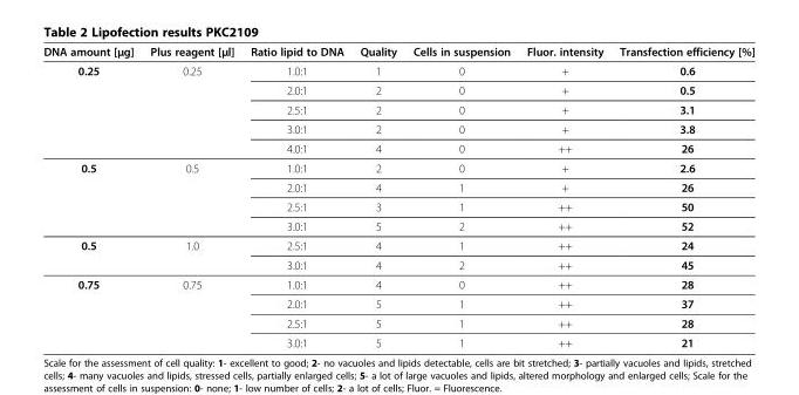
<table><thead><tr><td>DNA amount [μg]</td><td>Plus reagent [μl]</td><td>Ratio lipid to DNA</td><td>Quality</td><td>Cells in suspension</td><td>Fluor. intensity</td><td>Transfection efficiency [%]</td></tr></thead><tbody><tr><td rowspan="5">0.25</td><td rowspan="5">0.25</td><td>1.0:1</td><td>1</td><td>0</td><td>+</td><td>0.6</td></tr><tr><td>2.0:1</td><td>2</td><td>0</td><td>+</td><td>0.5</td></tr><tr><td>2.5:1</td><td>2</td><td>0</td><td>+</td><td>3.1</td></tr><tr><td>3.0:1</td><td>2</td><td>0</td><td>+</td><td>3.8</td></tr><tr><td>4.0:1</td><td>4</td><td>0</td><td>++</td><td>26</td></tr><tr><td rowspan="4">0.5</td><td rowspan="4">0.5</td><td>1.0:1</td><td>2</td><td>0</td><td>+</td><td>2.6</td></tr><tr><td>2.0:1</td><td>4</td><td>1</td><td>+</td><td>26</td></tr><tr><td>2.5:1</td><td>3</td><td>1</td><td>++</td><td>50</td></tr><tr><td>3.0:1</td><td>5</td><td>2</td><td>++</td><td>52</td></tr><tr><td rowspan="2">0.5</td><td rowspan="2">1.0</td><td>2.5:1</td><td>4</td><td>1</td><td>++</td><td>24</td></tr><tr><td>3.0:1</td><td>4</td><td>2</td><td>++</td><td>45</td></tr><tr><td rowspan="4">0.75</td><td rowspan="4">0.75</td><td>1.0:1</td><td>4</td><td>0</td><td>++</td><td>28</td></tr><tr><td>2.0:1</td><td>5</td><td>1</td><td>++</td><td>37</td></tr><tr><td>2.5:1</td><td>5</td><td>1</td><td>++</td><td>28</td></tr><tr><td>3.0:1</td><td>5</td><td>1</td><td>++</td><td>21</td></tr></tbody></table>